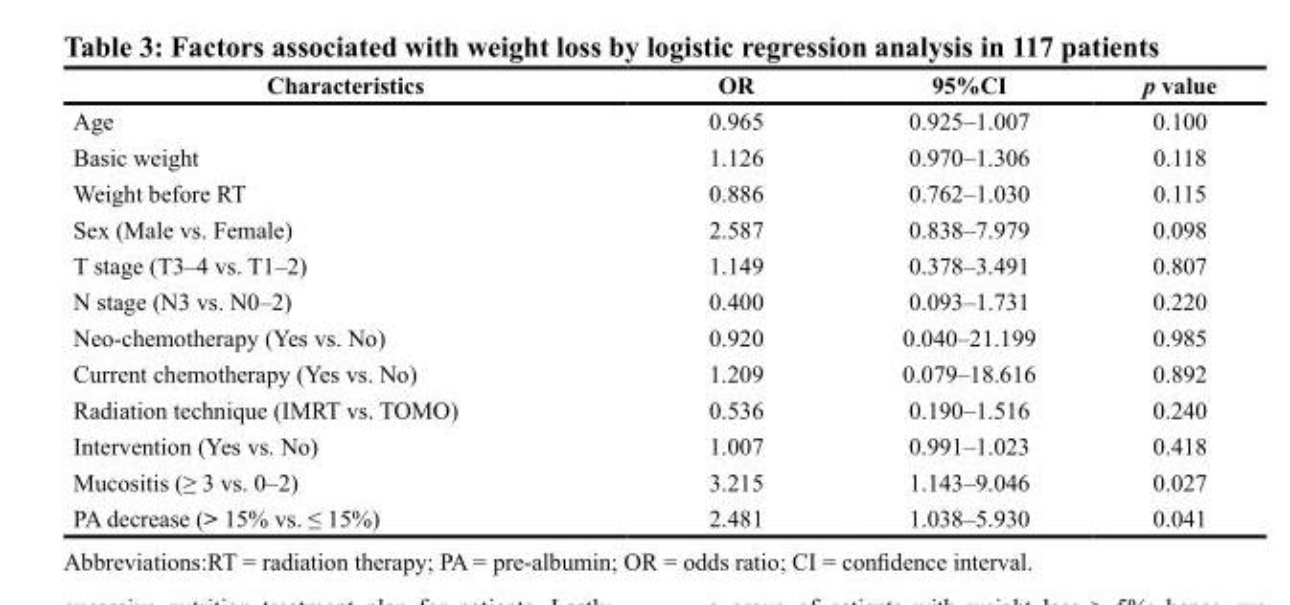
<table><thead><tr><td>Characteristics</td><td>OR</td><td>95%CI</td><td>p value</td></tr></thead><tbody><tr><td>Age</td><td>0.965</td><td>0.925–1.007</td><td>0.100</td></tr><tr><td>Basic weight</td><td>1.126</td><td>0.970–1.306</td><td>0.118</td></tr><tr><td>Weight before RT</td><td>0.886</td><td>0.762–1.030</td><td>0.115</td></tr><tr><td>Sex (Male vs. Female)</td><td>2.587</td><td>0.838–7.979</td><td>0.098</td></tr><tr><td>T stage (T3–4 vs. T1–2)</td><td>1.149</td><td>0.378–3.491</td><td>0.807</td></tr><tr><td>N stage (N3 vs. N0–2)</td><td>0.400</td><td>0.093–1.731</td><td>0.220</td></tr><tr><td>Neo-chemotherapy (Yes vs. No)</td><td>0.920</td><td>0.040–21.199</td><td>0.985</td></tr><tr><td>Current chemotherapy (Yes vs. No)</td><td>1.209</td><td>0.079–18.616</td><td>0.892</td></tr><tr><td>Radiation technique (IMRT vs. TOMO)</td><td>0.536</td><td>0.190–1.516</td><td>0.240</td></tr><tr><td>Intervention (Yes vs. No)</td><td>1.007</td><td>0.991–1.023</td><td>0.418</td></tr><tr><td>Mucositis (≥ 3 vs. 0–2)</td><td>3.215</td><td>1.143–9.046</td><td>0.027</td></tr><tr><td>PA decrease (&gt; 15% vs. ≤ 15%)</td><td>2.481</td><td>1.038–5.930</td><td>0.041</td></tr></tbody></table>